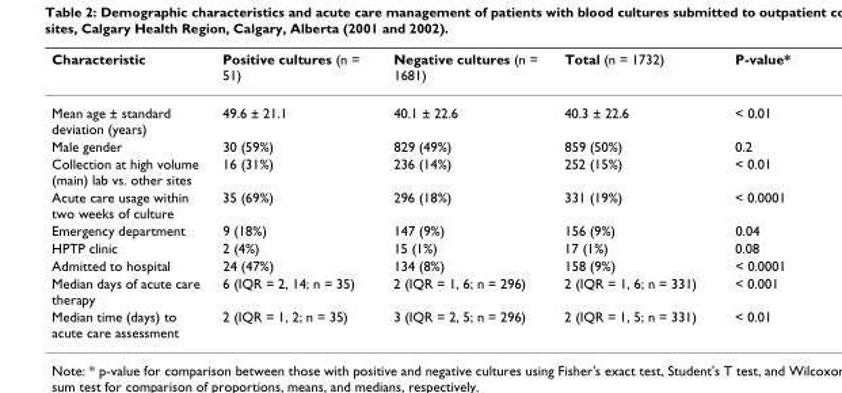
<table><thead><tr><td>Characteristic</td><td>Positive cultures (n = 51)</td><td>Negative cultures (n = 1681)</td><td>Total (n = 1732)</td><td>P-value*</td></tr></thead><tbody><tr><td>Mean age ± standard deviation (years)</td><td>49.6 ± 21.1</td><td>40.1 ± 22.6</td><td>40.3 ± 22.6</td><td>&lt; 0.01</td></tr><tr><td>Male gender</td><td>30 (59%)</td><td>829 (49%)</td><td>859 (50%)</td><td>0.2</td></tr><tr><td>Collection at high volume (main) lab vs. other sites</td><td>16 (31%)</td><td>236 (14%)</td><td>252 (15%)</td><td>&lt; 0.01</td></tr><tr><td>Acute care usage within two weeks of culture</td><td>35 (69%)</td><td>296 (18%)</td><td>331 (19%)</td><td>&lt; 0.0001</td></tr><tr><td>Emergency department</td><td>9 (18%)</td><td>147 (9%)</td><td>156 (9%)</td><td>0.04</td></tr><tr><td>HPTP clinic</td><td>2 (4%)</td><td>15 (1%)</td><td>17 (1%)</td><td>0.08</td></tr><tr><td>Admitted to hospital</td><td>24 (47%)</td><td>134 (8%)</td><td>158 (9%)</td><td>&lt; 0.0001</td></tr><tr><td>Median days of acute care therapy</td><td>6 (IQR = 2, 14; n = 35)</td><td>2 (IQR = 1, 6; n = 296)</td><td>2 (IQR = 1, 6; n = 331)</td><td>&lt; 0.001</td></tr><tr><td>Median time (days) to acute care assessment</td><td>2 (IQR = 1, 2; n = 35)</td><td>3 (IQR = 2, 5; n = 296)</td><td>2 (IQR = 1, 5; n = 331)</td><td>&lt; 0.01</td></tr></tbody></table>